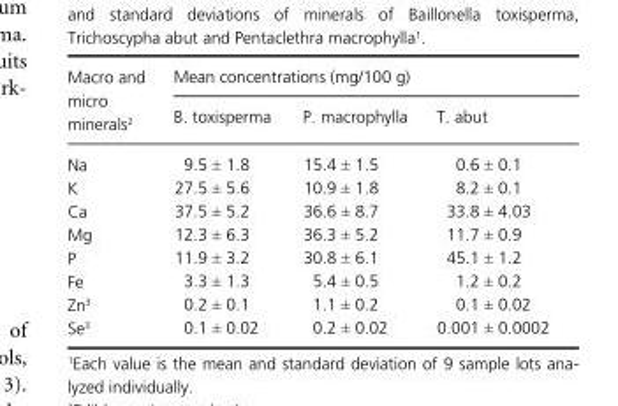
<table><thead><tr><td rowspan="2">Macro and micro minerals <sup>2</sup></td><td colspan="3">Mean concentrations (mg/100 g)</td></tr><tr><td>B. toxisperma</td><td>P. macrophylla</td><td>T. abut</td></tr></thead><tbody><tr><td>Na</td><td>9.5 ± 1.8</td><td>15.4 ± 1.5</td><td>0.6 ± 0.1</td></tr><tr><td>K</td><td>27.5 ± 5.6</td><td>10.9 ± 1.8</td><td>8.2 ± 0.1</td></tr><tr><td>Ca</td><td>37.5 ± 5.2</td><td>36.6 ± 8.7</td><td>33.8 ± 4.03</td></tr><tr><td>Mg</td><td>12.3 ± 6.3</td><td>36.3 ± 5.2</td><td>11.7 ± 0.9</td></tr><tr><td>P</td><td>11.9 ± 3.2</td><td>30.8 ± 6.1</td><td>45.1 ± 1.2</td></tr><tr><td>Fe</td><td>3.3 ± 1.3</td><td>5.4 ± 0.5</td><td>1.2 ± 0.2</td></tr><tr><td>Zn <sup>3</sup></td><td>0.2 ± 0.1</td><td>1.1 ± 0.2</td><td>0.1 ± 0.02</td></tr><tr><td>Se <sup>3</sup></td><td>0.1 ± 0.02</td><td>0.2 ± 0.02</td><td>0.001 ± 0.0002</td></tr></tbody></table>